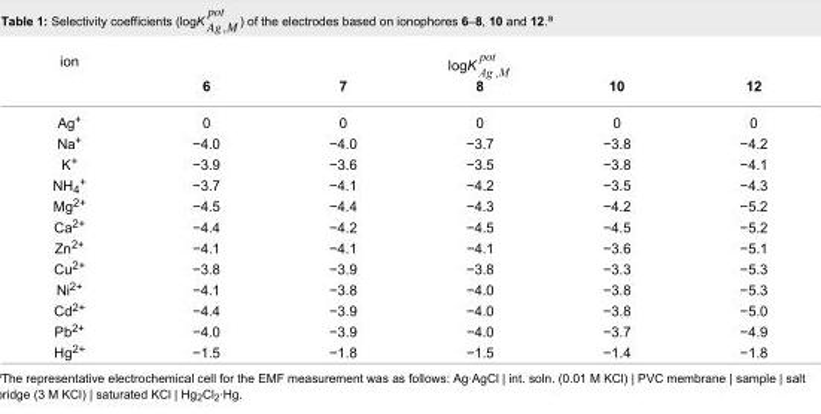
<table><tbody><tr><td rowspan="2">ion</td><td colspan="5">logK</td></tr><tr><td>6</td><td>7</td><td>8</td><td>10</td><td>12</td></tr><tr><td>Ag<sup>+</sup></td><td>0</td><td>0</td><td>0</td><td>0</td><td>0</td></tr><tr><td>Na<sup>+</sup></td><td>−4.0</td><td>−4.0</td><td>−3.7</td><td>−3.8</td><td>−4.2</td></tr><tr><td>K<sup>+</sup></td><td>−3.9</td><td>−3.6</td><td>−3.5</td><td>−3.8</td><td>−4.1</td></tr><tr><td>NH<sub>4</sub><sup>+</sup></td><td>−3.7</td><td>−4.1</td><td>−4.2</td><td>−3.5</td><td>−4.3</td></tr><tr><td>Mg<sup>2+</sup></td><td>−4.5</td><td>−4.4</td><td>−4.3</td><td>−4.2</td><td>−5.2</td></tr><tr><td>Ca<sup>2+</sup></td><td>−4.4</td><td>−4.2</td><td>−4.5</td><td>−4.5</td><td>−5.2</td></tr><tr><td>Zn<sup>2+</sup></td><td>−4.1</td><td>−4.1</td><td>−4.1</td><td>−3.6</td><td>−5.1</td></tr><tr><td>Cu<sup>2+</sup></td><td>−3.8</td><td>−3.9</td><td>−3.8</td><td>−3.3</td><td>−5.3</td></tr><tr><td>Ni<sup>2+</sup></td><td>−4.1</td><td>−3.8</td><td>−4.0</td><td>−3.8</td><td>−5.3</td></tr><tr><td>Cd<sup>2+</sup></td><td>−4.4</td><td>−3.9</td><td>−4.0</td><td>−3.8</td><td>−5.0</td></tr><tr><td>Pb<sup>2+</sup></td><td>−4.0</td><td>−3.9</td><td>−4.0</td><td>−3.7</td><td>−4.9</td></tr><tr><td>Hg<sup>2+</sup></td><td>−1.5</td><td>−1.8</td><td>−1.5</td><td>−1.4</td><td>−1.8</td></tr></tbody></table>